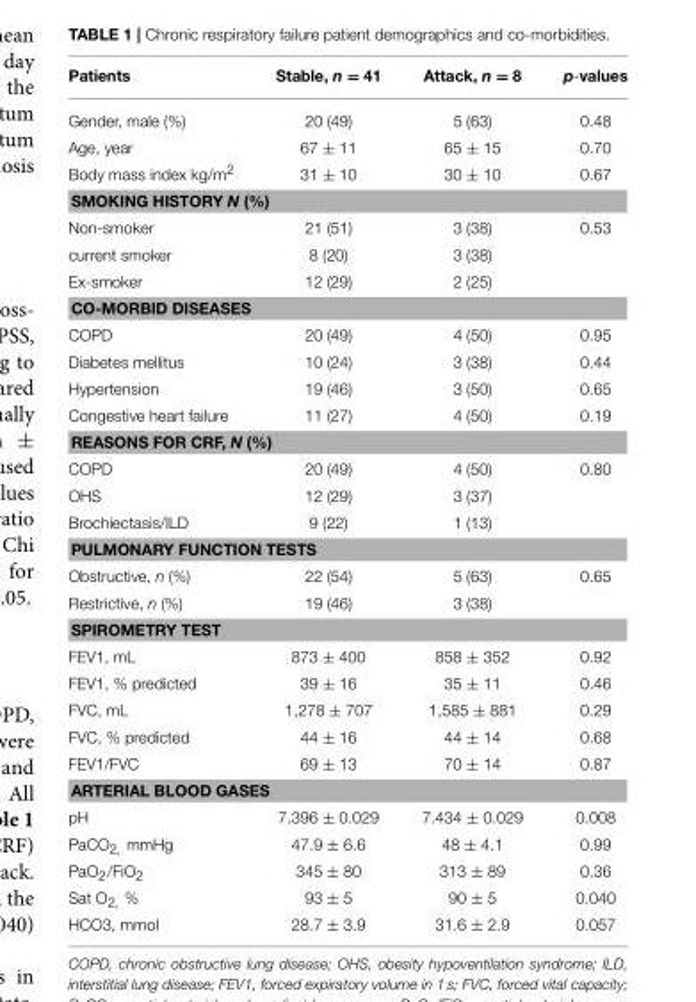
<table><thead><tr><td>Patients</td><td>Stable, n = 41</td><td>Attack, n = 8</td><td>p-values</td></tr></thead><tbody><tr><td>Gender, male (%)</td><td>20 (49)</td><td>5 (63)</td><td>0.48</td></tr><tr><td>Age, year</td><td>67 ± 11</td><td>65 ± 15</td><td>0.70</td></tr><tr><td>Body mass index kg/m<sup>2</sup></td><td>31 ± 10</td><td>30 ± 10</td><td>0.67</td></tr><tr><td colspan="4">SMOKING HISTORY N (%)</td></tr><tr><td>Non-smoker</td><td>21 (51)</td><td>3 (38)</td><td>0.53</td></tr><tr><td>current smoker</td><td>8 (20)</td><td>3 (38)</td><td></td></tr><tr><td>Ex-smoker</td><td>12 (29)</td><td>2 (25)</td><td></td></tr><tr><td colspan="4">CO-MORBID DISEASES</td></tr><tr><td>COPD</td><td>20 (49)</td><td>4 (50)</td><td>0.95</td></tr><tr><td>Diabetes mellitus</td><td>10 (24)</td><td>3 (38)</td><td>0.44</td></tr><tr><td>Hypertension</td><td>19 (46)</td><td>3 (50)</td><td>0.65</td></tr><tr><td>Congestive heart failure</td><td>11 (27)</td><td>4 (50)</td><td>0.19</td></tr><tr><td colspan="4">REASONS FOR CRF, N (%)</td></tr><tr><td>COPD</td><td>20 (49)</td><td>4 (50)</td><td>0.80</td></tr><tr><td>OHS</td><td>12 (29)</td><td>3 (37)</td><td></td></tr><tr><td>Brochiectasis/ILD</td><td>9 (22)</td><td>1 (13)</td><td></td></tr><tr><td colspan="4">PULMONARY FUNCTION TESTS</td></tr><tr><td>Obstructive, n (%)</td><td>22 (54)</td><td>5 (63)</td><td>0.65</td></tr><tr><td>Restrictive, n (%)</td><td>19 (46)</td><td>3 (38)</td><td></td></tr><tr><td colspan="4">SPIROMETRY TEST</td></tr><tr><td>FEV1, mL</td><td>873 ± 400</td><td>858 ± 352</td><td>0.92</td></tr><tr><td>FEV1, % predicted</td><td>39 ± 16</td><td>35 ± 11</td><td>0.46</td></tr><tr><td>FVC, mL</td><td>1,278 ± 707</td><td>1,585 ± 881</td><td>0.29</td></tr><tr><td>FVC, % predicted</td><td>44 ± 16</td><td>44 ± 14</td><td>0.68</td></tr><tr><td>FEV1/FVC</td><td>69 ± 13</td><td>70 ± 14</td><td>0.87</td></tr><tr><td colspan="4">ARTERIAL BLOOD GASES</td></tr><tr><td>pH</td><td>7.396 ± 0.029</td><td>7.434 ± 0.029</td><td>0.008</td></tr><tr><td>PaCO<sub>2</sub>, mmHg</td><td>47.9 ± 6.6</td><td>48 ± 4.1</td><td>0.99</td></tr><tr><td>PaO<sub>2</sub>/FiO<sub>2</sub></td><td>345 ± 80</td><td>313 ± 89</td><td>0.36</td></tr><tr><td>Sat O<sub>2</sub>, %</td><td>93 ± 5</td><td>90 ± 5</td><td>0.040</td></tr><tr><td>HCO3, mmol</td><td>28.7 ± 3.9</td><td>31.6 ± 2.9</td><td>0.057</td></tr></tbody></table>